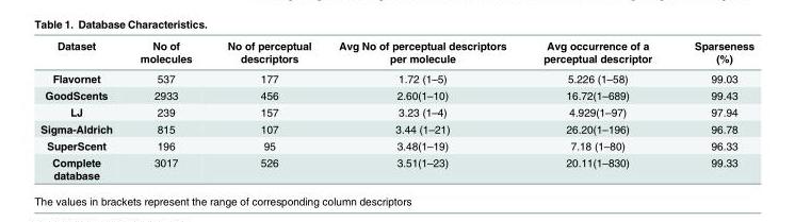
<table><thead><tr><td>Dataset</td><td>No of molecules</td><td>No of perceptual descriptors</td><td>Avg No of perceptual descriptors per molecule</td><td>Avg occurrence of a perceptual descriptor</td><td>Sparseness (%)</td></tr></thead><tbody><tr><td>Flavornet</td><td>537</td><td>177</td><td>1.72 (1–5)</td><td>5.226 (1–58)</td><td>99.03</td></tr><tr><td>GoodScents</td><td>2933</td><td>456</td><td>2.60(1–10)</td><td>16.72(1–689)</td><td>99.43</td></tr><tr><td>LJ</td><td>239</td><td>157</td><td>3.23 (1–4)</td><td>4.929(1–97)</td><td>97.94</td></tr><tr><td>Sigma-Aldrich</td><td>815</td><td>107</td><td>3.44 (1–21)</td><td>26.20(1–196)</td><td>96.78</td></tr><tr><td>SuperScent</td><td>196</td><td>95</td><td>3.48(1–19)</td><td>7.18 (1–80)</td><td>96.33</td></tr><tr><td>Complete database</td><td>3017</td><td>526</td><td>3.51(1–23)</td><td>20.11(1–830)</td><td>99.33</td></tr></tbody></table>